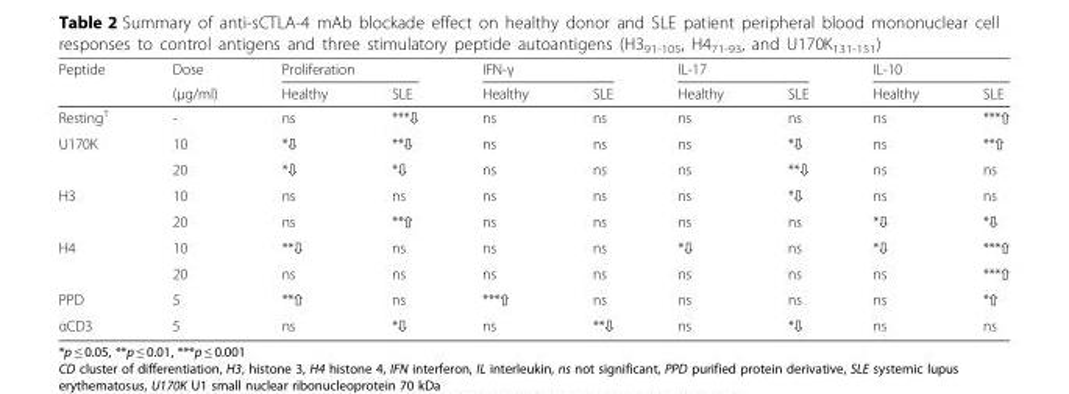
<table><thead><tr><td rowspan="2">Peptide</td><td rowspan="2">Dose (μg/ml)</td><td colspan="2">Proliferation</td><td colspan="2">IFN-γ</td><td colspan="2">IL-17</td><td colspan="2">IL-10</td></tr><tr><td>Healthy</td><td>SLE</td><td>Healthy</td><td>SLE</td><td>Healthy</td><td>SLE</td><td>Healthy</td><td>SLE</td></tr></thead><tbody><tr><td>Resting<sup>†</sup></td><td>-</td><td>ns</td><td>***⇩</td><td>ns</td><td>ns</td><td>ns</td><td>ns</td><td>ns</td><td>***⇧</td></tr><tr><td rowspan="2">U170K</td><td>10</td><td>*⇩</td><td>**⇩</td><td>ns</td><td>ns</td><td>ns</td><td>*⇩</td><td>ns</td><td>**⇧</td></tr><tr><td>20</td><td>*⇩</td><td>*⇩</td><td>ns</td><td>ns</td><td>ns</td><td>**⇩</td><td>ns</td><td>ns</td></tr><tr><td rowspan="2">H3</td><td>10</td><td>ns</td><td>ns</td><td>ns</td><td>ns</td><td>ns</td><td>*⇩</td><td>ns</td><td>ns</td></tr><tr><td>20</td><td>ns</td><td>**⇧</td><td>ns</td><td>ns</td><td>ns</td><td>ns</td><td>*⇩</td><td>*⇩</td></tr><tr><td rowspan="2">H4</td><td>10</td><td>**⇩</td><td>ns</td><td>ns</td><td>ns</td><td>*⇩</td><td>ns</td><td>*⇩</td><td>***⇧</td></tr><tr><td>20</td><td>ns</td><td>ns</td><td>ns</td><td>ns</td><td>ns</td><td>ns</td><td>ns</td><td>***⇧</td></tr><tr><td>PPD</td><td>5</td><td>**⇧</td><td>ns</td><td>***⇧</td><td>ns</td><td>ns</td><td>ns</td><td>ns</td><td>*⇧</td></tr><tr><td>αCD3</td><td>5</td><td>ns</td><td>*⇩</td><td>ns</td><td>**⇩</td><td>ns</td><td>*⇩</td><td>ns</td><td>ns</td></tr></tbody></table>